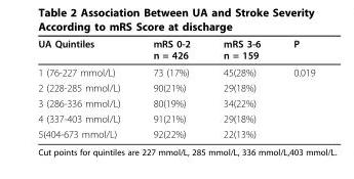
<table><thead><tr><td>UA Quintiles</td><td>mRS 0-2 n = 426</td><td>mRS 3-6 n = 159</td><td>P</td></tr></thead><tbody><tr><td>1 (76-227 mmol/L)</td><td>73 (17%)</td><td>45(28%)</td><td>0.019</td></tr><tr><td>2 (228-285 mmol/L)</td><td>90(21%)</td><td>29(18%)</td><td></td></tr><tr><td>3 (286-336 mmol/L)</td><td>80(19%)</td><td>34(22%)</td><td></td></tr><tr><td>4 (337-403 mmol/L)</td><td>91(21%)</td><td>29(18%)</td><td></td></tr><tr><td>5(404-673 mmol/L)</td><td>92(22%)</td><td>22(13%)</td><td></td></tr></tbody></table>